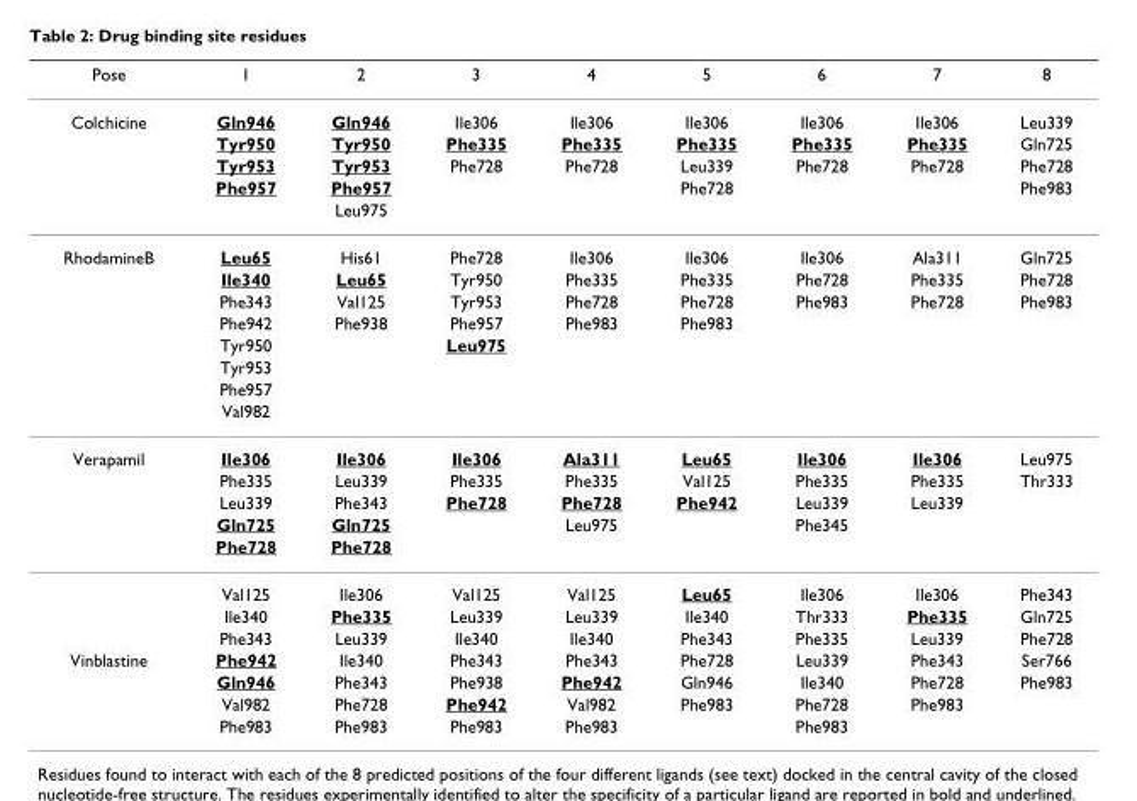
<table><thead><tr><td>Pose</td><td>1</td><td>2</td><td>3</td><td>4</td><td>5</td><td>6</td><td>7</td><td>8</td></tr></thead><tbody><tr><td rowspan="5">Colchicine</td><td>Gln946</td><td>Gln946</td><td>Ile306</td><td>Ile306</td><td>Ile306</td><td>Ile306</td><td>Ile306</td><td>Leu339</td></tr><tr><td>Tyr950</td><td>Tyr950</td><td>Phe335</td><td>Phe335</td><td>Phe335</td><td>Phe335</td><td>Phe335</td><td>Gln725</td></tr><tr><td>Tyr953</td><td>Tyr953</td><td>Phe728</td><td>Phe728</td><td>Leu339</td><td>Phe728</td><td>Phe728</td><td>Phe728</td></tr><tr><td>Phe957</td><td>Phe957</td><td></td><td></td><td>Phe728</td><td></td><td></td><td>Phe983</td></tr><tr><td></td><td>Leu975</td><td></td><td></td><td></td><td></td><td></td><td></td></tr><tr><td rowspan="8">RhodamineB</td><td>Leu65</td><td>His61</td><td>Phe728</td><td>Ile306</td><td>Ile306</td><td>Ile306</td><td>Ala311</td><td>Gln725</td></tr><tr><td>Ile340</td><td>Leu65</td><td>Tyr950</td><td>Phe335</td><td>Phe335</td><td>Phe728</td><td>Phe335</td><td>Phe728</td></tr><tr><td>Phe343</td><td>Val125</td><td>Tyr953</td><td>Phe728</td><td>Phe728</td><td>Phe983</td><td>Phe728</td><td>Phe983</td></tr><tr><td>Phe942</td><td>Phe938</td><td>Phe957</td><td>Phe983</td><td>Phe983</td><td></td><td></td><td></td></tr><tr><td>Tyr950</td><td></td><td>Leu975</td><td></td><td></td><td></td><td></td><td></td></tr><tr><td>Tyr953</td><td></td><td></td><td></td><td></td><td></td><td></td><td></td></tr><tr><td>Phe957</td><td></td><td></td><td></td><td></td><td></td><td></td><td></td></tr><tr><td>Val982</td><td></td><td></td><td></td><td></td><td></td><td></td><td></td></tr><tr><td rowspan="8">Verapamil</td><td>Ile306</td><td>Ile306</td><td>Ile306</td><td>Ala311</td><td>Leu65</td><td>Ile306</td><td>Ile306</td><td>Leu975</td></tr><tr><td>Phe335</td><td>Leu339</td><td>Phe335</td><td>Phe335</td><td>Val125</td><td>Phe335</td><td>Phe335</td><td>Thr333</td></tr><tr><td>Leu339</td><td>Phe343</td><td>Phe728</td><td>Phe728</td><td>Phe942</td><td>Leu339</td><td>Leu339</td><td></td></tr><tr><td>Gln725</td><td>Gln725</td><td></td><td>Leu975</td><td></td><td>Phe345</td><td></td><td></td></tr><tr><td>Phe728</td><td>Phe728</td><td></td><td></td><td></td><td></td><td></td><td></td></tr><tr><td>Val125</td><td>Ile306</td><td>Val125</td><td>Val125</td><td>Leu65</td><td>Ile306</td><td>Ile306</td><td>Phe343</td></tr><tr><td>Ile340</td><td>Phe335</td><td>Leu339</td><td>Leu339</td><td>Ile340</td><td>Thr333</td><td>Phe335</td><td>Gln725</td></tr><tr><td>Phe343</td><td>Leu339</td><td>Ile340</td><td>Ile340</td><td>Phe343</td><td>Phe335</td><td>Leu339</td><td>Phe728</td></tr><tr><td rowspan="4">Vinblastine</td><td>Phe942</td><td>Ile340</td><td>Phe343</td><td>Phe343</td><td>Phe728</td><td>Leu339</td><td>Phe343</td><td>Ser766</td></tr><tr><td>Gln946</td><td>Phe343</td><td>Phe938</td><td>Phe942</td><td>Gln946</td><td>Ile340</td><td>Phe728</td><td>Phe983</td></tr><tr><td>Val982</td><td>Phe728</td><td>Phe942</td><td>Val982</td><td>Phe983</td><td>Phe728</td><td>Phe983</td><td></td></tr><tr><td>Phe983</td><td>Phe983</td><td>Phe983</td><td>Phe983</td><td></td><td>Phe983</td><td></td><td></td></tr></tbody></table>